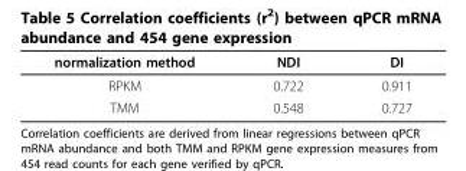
<table><thead><tr><td>normalization method</td><td>NDI</td><td>DI</td></tr></thead><tbody><tr><td>RPKM</td><td>0.722</td><td>0.911</td></tr><tr><td>TMM</td><td>0.548</td><td>0.727</td></tr></tbody></table>